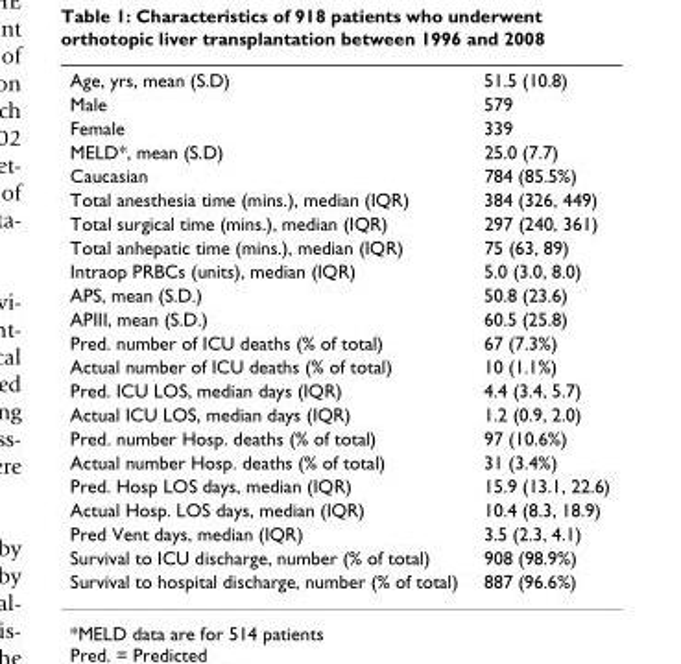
<table><tbody><tr><td>Age, yrs, mean (S.D)</td><td>51.5 (10.8)</td></tr><tr><td>Male</td><td>579</td></tr><tr><td>Female</td><td>339</td></tr><tr><td>MELD*, mean (S.D)</td><td>25.0 (7.7)</td></tr><tr><td>Caucasian</td><td>784 (85.5%)</td></tr><tr><td>Total anesthesia time (mins.), median (IQR)</td><td>384 (326, 449)</td></tr><tr><td>Total surgical time (mins.), median (IQR)</td><td>297 (240, 361)</td></tr><tr><td>Total anhepatic time (mins.), median (IQR)</td><td>75 (63, 89)</td></tr><tr><td>Intraop PRBCs (units), median (IQR)</td><td>5.0 (3.0, 8.0)</td></tr><tr><td>APS, mean (S.D.)</td><td>50.8 (23.6)</td></tr><tr><td>APIII, mean (S.D.)</td><td>60.5 (25.8)</td></tr><tr><td>Pred. number of ICU deaths (% of total)</td><td>67 (7.3%)</td></tr><tr><td>Actual number of ICU deaths (% of total)</td><td>10 (1.1%)</td></tr><tr><td>Pred. ICU LOS, median days (IQR)</td><td>4.4 (3.4, 5.7)</td></tr><tr><td>Actual ICU LOS, median days (IQR)</td><td>1.2 (0.9, 2.0)</td></tr><tr><td>Pred. number Hosp. deaths (% of total)</td><td>97 (10.6%)</td></tr><tr><td>Actual number Hosp. deaths (% of total)</td><td>31 (3.4%)</td></tr><tr><td>Pred. Hosp LOS days, median (IQR)</td><td>15.9 (13.1, 22.6)</td></tr><tr><td>Actual Hosp. LOS days, median (IQR)</td><td>10.4 (8.3, 18.9)</td></tr><tr><td>Pred Vent days, median (IQR)</td><td>3.5 (2.3, 4.1)</td></tr><tr><td>Survival to ICU discharge, number (% of total)</td><td>908 (98.9%)</td></tr><tr><td>Survival to hospital discharge, number (% of total)</td><td>887 (96.6%)</td></tr></tbody></table>